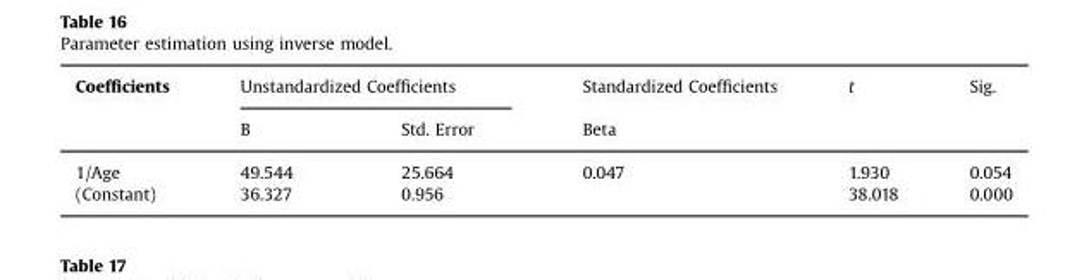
<table><thead><tr><td rowspan="2">Coefficients</td><td colspan="2">Unstandardized Coefficients</td><td rowspan="2">Standardized Coefficients Beta</td><td rowspan="2">t</td><td rowspan="2">Sig.</td></tr><tr><td>B</td><td>Std. Error</td></tr></thead><tbody><tr><td>1/Age</td><td>49.544</td><td>25.664</td><td>0.047</td><td>1.930</td><td>0.054</td></tr><tr><td>(Constant)</td><td>36.327</td><td>0.956</td><td></td><td>38.018</td><td>0.000</td></tr></tbody></table>